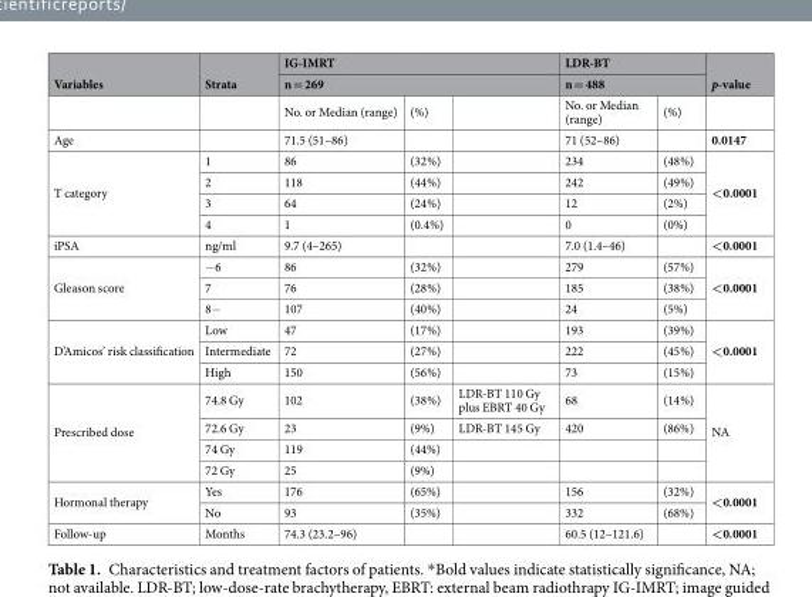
<table><thead><tr><td rowspan="3">Variables</td><td rowspan="3">Strata</td><td rowspan="2" colspan="3">IG-IMRT n = 269</td><td rowspan="2" colspan="2">LDR-BT n = 488</td><td rowspan="3">p-value</td></tr><tr></tr><tr><td>No. or Median (range)</td><td>(%)</td><td></td><td>No. or Median (range)</td><td>(%)</td></tr></thead><tbody><tr><td>Age</td><td></td><td>71.5 (51–86)</td><td></td><td></td><td>71 (52–86)</td><td></td><td>0.0147</td></tr><tr><td rowspan="4">T category</td><td>1</td><td>86</td><td>(32%)</td><td></td><td>234</td><td>(48%)</td><td rowspan="4">&lt;0.0001</td></tr><tr><td>2</td><td>118</td><td>(44%)</td><td></td><td>242</td><td>(49%)</td></tr><tr><td>3</td><td>64</td><td>(24%)</td><td></td><td>12</td><td>(2%)</td></tr><tr><td>4</td><td>1</td><td>(0.4%)</td><td></td><td>0</td><td>(0%)</td></tr><tr><td>iPSA</td><td>ng/ml</td><td>9.7 (4–265)</td><td></td><td></td><td>7.0 (1.4–46)</td><td></td><td>&lt;0.0001</td></tr><tr><td rowspan="3">Gleason score</td><td>−6</td><td>86</td><td>(32%)</td><td></td><td>279</td><td>(57%)</td><td rowspan="3">&lt;0.0001</td></tr><tr><td>7</td><td>76</td><td>(28%)</td><td></td><td>185</td><td>(38%)</td></tr><tr><td>8−</td><td>107</td><td>(40%)</td><td></td><td>24</td><td>(5%)</td></tr><tr><td rowspan="3">D’Amicos’ risk classification</td><td>Low</td><td>47</td><td>(17%)</td><td></td><td>193</td><td>(39%)</td><td rowspan="3">&lt;0.0001</td></tr><tr><td>Intermediate</td><td>72</td><td>(27%)</td><td></td><td>222</td><td>(45%)</td></tr><tr><td>High</td><td>150</td><td>(56%)</td><td></td><td>73</td><td>(15%)</td></tr><tr><td rowspan="4">Prescribed dose</td><td>74.8 Gy</td><td>102</td><td>(38%)</td><td>LDR-BT 110 Gy plus EBRT 40 Gy</td><td>68</td><td>(14%)</td><td rowspan="4">NA</td></tr><tr><td>72.6 Gy</td><td>23</td><td>(9%)</td><td>LDR-BT 145 Gy</td><td>420</td><td>(86%)</td></tr><tr><td>74 Gy</td><td>119</td><td>(44%)</td><td></td><td></td><td></td></tr><tr><td>72 Gy</td><td>25</td><td>(9%)</td><td></td><td></td><td></td></tr><tr><td rowspan="2">Hormonal therapy</td><td>Yes</td><td>176</td><td>(65%)</td><td></td><td>156</td><td>(32%)</td><td rowspan="2">&lt;0.0001</td></tr><tr><td>No</td><td>93</td><td>(35%)</td><td></td><td>332</td><td>(68%)</td></tr><tr><td>Follow-up</td><td>Months</td><td>74.3 (23.2–96)</td><td></td><td></td><td>60.5 (12–121.6)</td><td></td><td>&lt;0.0001</td></tr></tbody></table>